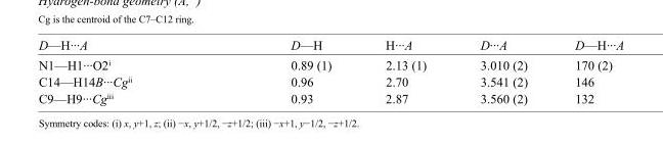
<table><tbody><tr><td>D—H···A</td><td>D—H</td><td>H···A</td><td>D···A</td><td>D—H···A</td></tr><tr><td>N1—H1···O2<sup>i</sup></td><td>0.89 (1)</td><td>2.13 (1)</td><td>3.010 (2)</td><td>170 (2)</td></tr><tr><td>C14—H14B···Cg<sup>ii</sup></td><td>0.96</td><td>2.70</td><td>3.541 (2)</td><td>146</td></tr><tr><td>C9—H9···Cg<sup>iii</sup></td><td>0.93</td><td>2.87</td><td>3.560 (2)</td><td>132</td></tr></tbody></table>